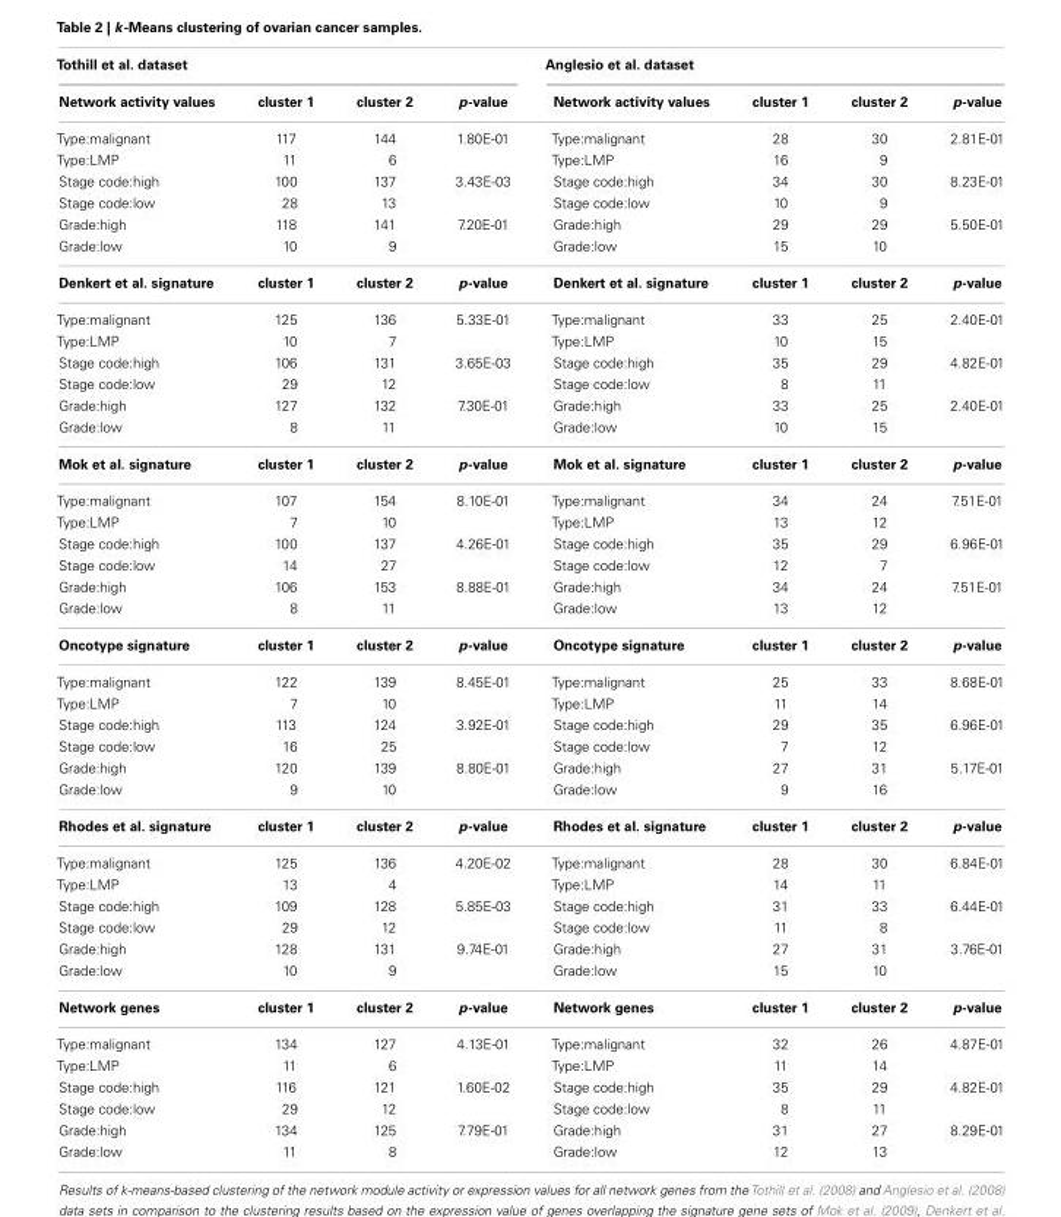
<table><thead><tr><td colspan="4">Tothill et al. dataset</td><td colspan="4">Anglesio et al. dataset</td></tr><tr><td>Network activity values</td><td>cluster 1</td><td>cluster 2</td><td>p-value</td><td>Network activity values</td><td>cluster 1</td><td>cluster 2</td><td>p-value</td></tr></thead><tbody><tr><td>Type:malignant</td><td>117</td><td>144</td><td>1.80E-01</td><td>Type:malignant</td><td>28</td><td>30</td><td>2.81E-01</td></tr><tr><td>Type:LMP</td><td>11</td><td>6</td><td></td><td>Type:LMP</td><td>16</td><td>9</td><td></td></tr><tr><td>Stage code:high</td><td>100</td><td>137</td><td>3.43E-03</td><td>Stage code:high</td><td>34</td><td>30</td><td>8.23E-01</td></tr><tr><td>Stage code:low</td><td>28</td><td>13</td><td></td><td>Stage code:low</td><td>10</td><td>9</td><td></td></tr><tr><td>Grade:high</td><td>118</td><td>141</td><td>7.20E-01</td><td>Grade:high</td><td>29</td><td>29</td><td>5.50E-01</td></tr><tr><td>Grade:low</td><td>10</td><td>9</td><td></td><td>Grade:low</td><td>15</td><td>10</td><td></td></tr><tr><td>Denkert et al. signature</td><td>cluster 1</td><td>cluster 2</td><td>p-value</td><td>Denkert et al. signature</td><td>cluster 1</td><td>cluster 2</td><td>p-value</td></tr><tr><td>Type:malignant</td><td>125</td><td>136</td><td>5.33E-01</td><td>Type:malignant</td><td>33</td><td>25</td><td>2.40E-01</td></tr><tr><td>Type:LMP</td><td>10</td><td>7</td><td></td><td>Type:LMP</td><td>10</td><td>15</td><td></td></tr><tr><td>Stage code:high</td><td>106</td><td>131</td><td>3.65E-03</td><td>Stage code:high</td><td>35</td><td>29</td><td>4.82E-01</td></tr><tr><td>Stage code:low</td><td>29</td><td>12</td><td></td><td>Stage code:low</td><td>8</td><td>11</td><td></td></tr><tr><td>Grade:high</td><td>127</td><td>132</td><td>7.30E-01</td><td>Grade:high</td><td>33</td><td>25</td><td>2.40E-01</td></tr><tr><td>Grade:low</td><td>8</td><td>11</td><td></td><td>Grade:low</td><td>10</td><td>15</td><td></td></tr><tr><td>Mok et al. signature</td><td>cluster 1</td><td>cluster 2</td><td>p-value</td><td>Mok et al. signature</td><td>cluster 1</td><td>cluster 2</td><td>p-value</td></tr><tr><td>Type:malignant</td><td>107</td><td>154</td><td>8.10E-01</td><td>Type:malignant</td><td>34</td><td>24</td><td>7.51E-01</td></tr><tr><td>Type:LMP</td><td>7</td><td>10</td><td></td><td>Type:LMP</td><td>13</td><td>12</td><td></td></tr><tr><td>Stage code:high</td><td>100</td><td>137</td><td>4.26E-01</td><td>Stage code:high</td><td>35</td><td>29</td><td>6.96E-01</td></tr><tr><td>Stage code:low</td><td>14</td><td>27</td><td></td><td>Stage code:low</td><td>12</td><td>7</td><td></td></tr><tr><td>Grade:high</td><td>106</td><td>153</td><td>8.88E-01</td><td>Grade:high</td><td>34</td><td>24</td><td>7.51E-01</td></tr><tr><td>Grade:low</td><td>8</td><td>11</td><td></td><td>Grade:low</td><td>13</td><td>12</td><td></td></tr><tr><td>Oncotype signature</td><td>cluster 1</td><td>cluster 2</td><td>p-value</td><td>Oncotype signature</td><td>cluster 1</td><td>cluster 2</td><td>p-value</td></tr><tr><td>Type:malignant</td><td>122</td><td>139</td><td>8.45E-01</td><td>Type:malignant</td><td>25</td><td>33</td><td>8.68E-01</td></tr><tr><td>Type:LMP</td><td>7</td><td>10</td><td></td><td>Type:LMP</td><td>11</td><td>14</td><td></td></tr><tr><td>Stage code:high</td><td>113</td><td>124</td><td>3.92E-01</td><td>Stage code:high</td><td>29</td><td>35</td><td>6.96E-01</td></tr><tr><td>Stage code:low</td><td>16</td><td>25</td><td></td><td>Stage code:low</td><td>7</td><td>12</td><td></td></tr><tr><td>Grade:high</td><td>120</td><td>139</td><td>8.80E-01</td><td>Grade:high</td><td>27</td><td>31</td><td>5.17E-01</td></tr><tr><td>Grade:low</td><td>9</td><td>10</td><td></td><td>Grade:low</td><td>9</td><td>16</td><td></td></tr><tr><td>Rhodes et al. signature</td><td>cluster 1</td><td>cluster 2</td><td>p-value</td><td>Rhodes et al. signature</td><td>cluster 1</td><td>cluster 2</td><td>p-value</td></tr><tr><td>Type:malignant</td><td>125</td><td>136</td><td>4.20E-02</td><td>Type:malignant</td><td>28</td><td>30</td><td>6.84E-01</td></tr><tr><td>Type:LMP</td><td>13</td><td>4</td><td></td><td>Type:LMP</td><td>14</td><td>11</td><td></td></tr><tr><td>Stage code:high</td><td>109</td><td>128</td><td>5.85E-03</td><td>Stage code:high</td><td>31</td><td>33</td><td>6.44E-01</td></tr><tr><td>Stage code:low</td><td>29</td><td>12</td><td></td><td>Stage code:low</td><td>11</td><td>8</td><td></td></tr><tr><td>Grade:high</td><td>128</td><td>131</td><td>9.74E-01</td><td>Grade:high</td><td>27</td><td>31</td><td>3.76E-01</td></tr><tr><td>Grade:low</td><td>10</td><td>9</td><td></td><td>Grade:low</td><td>15</td><td>10</td><td></td></tr><tr><td>Network genes</td><td>cluster 1</td><td>cluster 2</td><td>p-value</td><td>Network genes</td><td>cluster 1</td><td>cluster 2</td><td>p-value</td></tr><tr><td>Type:malignant</td><td>134</td><td>127</td><td>4.13E-01</td><td>Type:malignant</td><td>32</td><td>26</td><td>4.87E-01</td></tr><tr><td>Type:LMP</td><td>11</td><td>6</td><td></td><td>Type:LMP</td><td>11</td><td>14</td><td></td></tr><tr><td>Stage code:high</td><td>116</td><td>121</td><td>1.60E-02</td><td>Stage code:high</td><td>35</td><td>29</td><td>4.82E-01</td></tr><tr><td>Stage code:low</td><td>29</td><td>12</td><td></td><td>Stage code:low</td><td>8</td><td>11</td><td></td></tr><tr><td>Grade:high</td><td>134</td><td>125</td><td>7.79E-01</td><td>Grade:high</td><td>31</td><td>27</td><td>8.29E-01</td></tr><tr><td>Grade:low</td><td>11</td><td>8</td><td></td><td>Grade:low</td><td>12</td><td>13</td><td></td></tr></tbody></table>